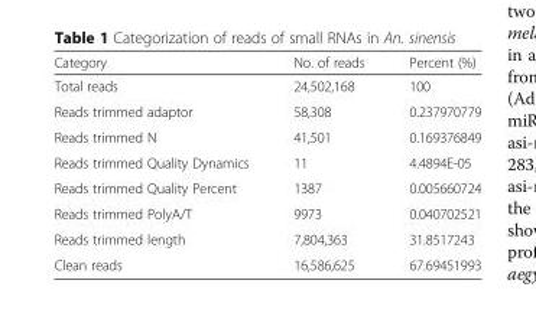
<table><thead><tr><td>Category</td><td>No. of reads</td><td>Percent (%)</td></tr></thead><tbody><tr><td>Total reads</td><td>24,502,168</td><td>100</td></tr><tr><td>Reads trimmed adaptor</td><td>58,308</td><td>0.237970779</td></tr><tr><td>Reads trimmed N</td><td>41,501</td><td>0.169376849</td></tr><tr><td>Reads trimmed Quality Dynamics</td><td>11</td><td>4.4894E-05</td></tr><tr><td>Reads trimmed Quality Percent</td><td>1387</td><td>0.005660724</td></tr><tr><td>Reads trimmed PolyA/T</td><td>9973</td><td>0.040702521</td></tr><tr><td>Reads trimmed length</td><td>7,804,363</td><td>31.8517243</td></tr><tr><td>Clean reads</td><td>16,586,625</td><td>67.69451993</td></tr></tbody></table>